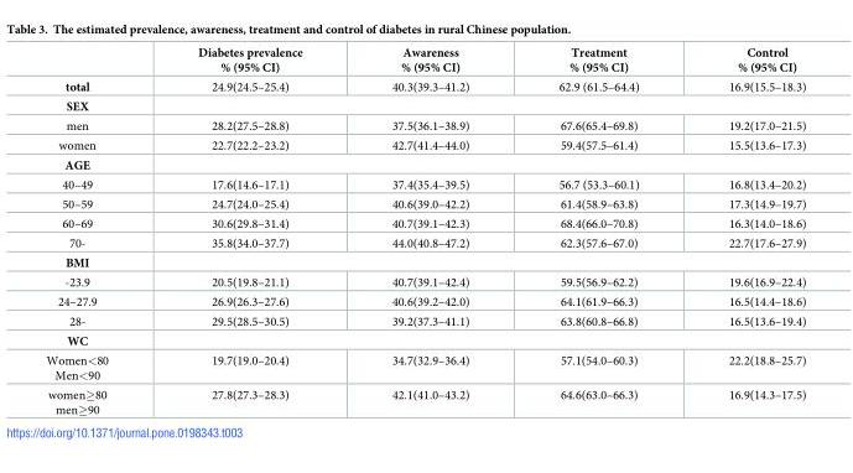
<table><thead><tr><td></td><td>Diabetes prevalence % (95% CI)</td><td>Awareness % (95% CI)</td><td>Treatment % (95% CI)</td><td>Control % (95% CI)</td></tr></thead><tbody><tr><td>total</td><td>24.9(24.5–25.4)</td><td>40.3(39.3–41.2)</td><td>62.9 (61.5–64.4)</td><td>16.9(15.5–18.3)</td></tr><tr><td colspan="5">SEX</td></tr><tr><td>men</td><td>28.2(27.5–28.8)</td><td>37.5(36.1–38.9)</td><td>67.6(65.4–69.8)</td><td>19.2(17.0–21.5)</td></tr><tr><td>women</td><td>22.7(22.2–23.2)</td><td>42.7(41.4–44.0)</td><td>59.4(57.5–61.4)</td><td>15.5(13.6–17.3)</td></tr><tr><td colspan="5">AGE</td></tr><tr><td>40–49</td><td>17.6(14.6–17.1)</td><td>37.4(35.4–39.5)</td><td>56.7 (53.3–60.1)</td><td>16.8(13.4–20.2)</td></tr><tr><td>50–59</td><td>24.7(24.0–25.4)</td><td>40.6(39.0–42.2)</td><td>61.4(58.9–63.8)</td><td>17.3(14.9–19.7)</td></tr><tr><td>60–69</td><td>30.6(29.8–31.4)</td><td>40.7(39.1–42.3)</td><td>68.4(66.0–70.8)</td><td>16.3(14.0–18.6)</td></tr><tr><td>70-</td><td>35.8(34.0–37.7)</td><td>44.0(40.8–47.2)</td><td>62.3(57.6–67.0)</td><td>22.7(17.6–27.9)</td></tr><tr><td colspan="5">BMI</td></tr><tr><td>-23.9</td><td>20.5(19.8–21.1)</td><td>40.7(39.1–42.4)</td><td>59.5(56.9–62.2)</td><td>19.6(16.9–22.4)</td></tr><tr><td>24–27.9</td><td>26.9(26.3–27.6)</td><td>40.6(39.2–42.0)</td><td>64.1(61.9–66.3)</td><td>16.5(14.4–18.6)</td></tr><tr><td>28-</td><td>29.5(28.5–30.5)</td><td>39.2(37.3–41.1)</td><td>63.8(60.8–66.8)</td><td>16.5(13.6–19.4)</td></tr><tr><td colspan="5">WC</td></tr><tr><td>Women&lt;80 Men&lt;90</td><td>19.7(19.0–20.4)</td><td>34.7(32.9–36.4)</td><td>57.1(54.0–60.3)</td><td>22.2(18.8–25.7)</td></tr><tr><td>women≥80 men≥90</td><td>27.8(27.3–28.3)</td><td>42.1(41.0–43.2)</td><td>64.6(63.0–66.3)</td><td>16.9(14.3–17.5)</td></tr></tbody></table>